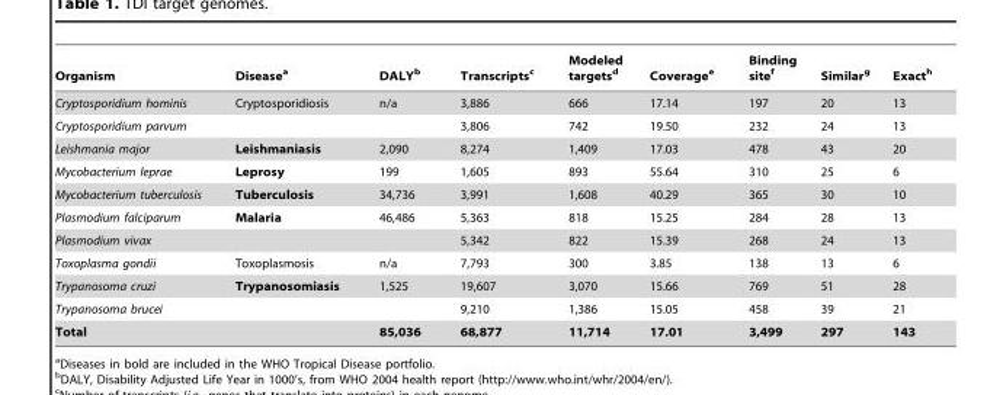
<table><thead><tr><td>Organism</td><td>Disease<sup>a</sup></td><td>DALY<sup>b</sup></td><td>Transcripts<sup>c</sup></td><td>Modeled targets<sup>d</sup></td><td>Coverage<sup>e</sup></td><td>Binding site<sup>f</sup></td><td>Similar<sup>g</sup></td><td>Exact<sup>h</sup></td></tr></thead><tbody><tr><td>Cryptosporidium hominis</td><td>Cryptosporidiosis</td><td>n/a</td><td>3,886</td><td>666</td><td>17.14</td><td>197</td><td>20</td><td>13</td></tr><tr><td>Cryptosporidium parvum</td><td></td><td></td><td>3,806</td><td>742</td><td>19.50</td><td>232</td><td>24</td><td>13</td></tr><tr><td>Leishmania major</td><td>Leishmaniasis</td><td>2,090</td><td>8,274</td><td>1,409</td><td>17.03</td><td>478</td><td>43</td><td>20</td></tr><tr><td>Mycobacterium leprae</td><td>Leprosy</td><td>199</td><td>1,605</td><td>893</td><td>55.64</td><td>310</td><td>25</td><td>6</td></tr><tr><td>Mycobacterium tuberculosis</td><td>Tuberculosis</td><td>34,736</td><td>3,991</td><td>1,608</td><td>40.29</td><td>365</td><td>30</td><td>10</td></tr><tr><td>Plasmodium falciparum</td><td>Malaria</td><td>46,486</td><td>5,363</td><td>818</td><td>15.25</td><td>284</td><td>28</td><td>13</td></tr><tr><td>Plasmodium vivax</td><td></td><td></td><td>5,342</td><td>822</td><td>15.39</td><td>268</td><td>24</td><td>13</td></tr><tr><td>Toxoplasma gondii</td><td>Toxoplasmosis</td><td>n/a</td><td>7,793</td><td>300</td><td>3.85</td><td>138</td><td>13</td><td>6</td></tr><tr><td>Trypanosoma cruzi</td><td>Trypanosomiasis</td><td>1,525</td><td>19,607</td><td>3,070</td><td>15.66</td><td>769</td><td>51</td><td>28</td></tr><tr><td>Trypanosoma brucei</td><td></td><td></td><td>9,210</td><td>1,386</td><td>15.05</td><td>458</td><td>39</td><td>21</td></tr><tr><td>Total</td><td></td><td>85,036</td><td>68,877</td><td>11,714</td><td>17.01</td><td>3,499</td><td>297</td><td>143</td></tr></tbody></table>